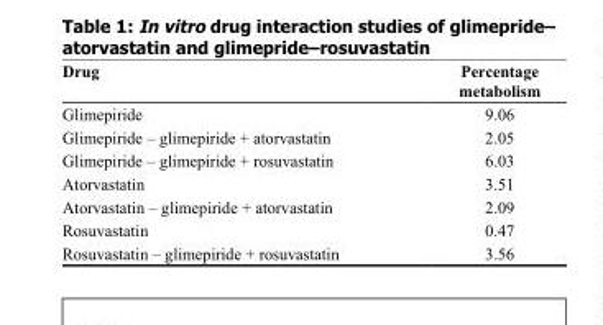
<table><thead><tr><td>Drug</td><td>Percentage metabolism</td></tr></thead><tbody><tr><td>Glimepiride</td><td>9.06</td></tr><tr><td>Glimepiride – glimepiride + atorvastatin</td><td>2.05</td></tr><tr><td>Glimepiride – glimepiride + rosuvastatin</td><td>6.03</td></tr><tr><td>Atorvastatin</td><td>3.51</td></tr><tr><td>Atorvastatin – glimepiride + atorvastatin</td><td>2.09</td></tr><tr><td>Rosuvastatin</td><td>0.47</td></tr><tr><td>Rosuvastatin – glimepiride + rosuvastatin</td><td>3.56</td></tr></tbody></table>